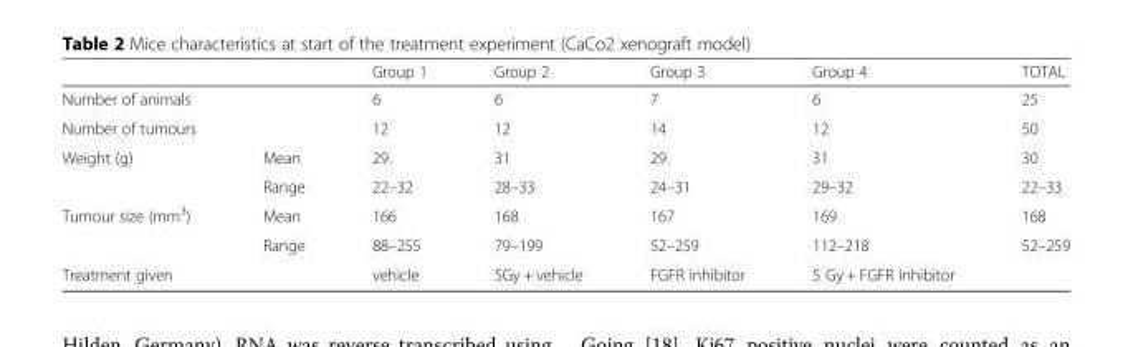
<table><thead><tr><td></td><td></td><td>Group 1</td><td>Group 2</td><td>Group 3</td><td>Group 4</td><td>TOTAL</td></tr></thead><tbody><tr><td>Number of animals</td><td></td><td>6</td><td>6</td><td>7</td><td>6</td><td>25</td></tr><tr><td>Number of tumours</td><td></td><td>12</td><td>12</td><td>14</td><td>12</td><td>50</td></tr><tr><td rowspan="2">Weight (g)</td><td>Mean</td><td>29</td><td>31</td><td>29</td><td>31</td><td>30</td></tr><tr><td>Range</td><td>22–32</td><td>28–33</td><td>24–31</td><td>29–32</td><td>22–33</td></tr><tr><td rowspan="2">Tumour size (mm<sup>3</sup>)</td><td>Mean</td><td>166</td><td>168</td><td>167</td><td>169</td><td>168</td></tr><tr><td>Range</td><td>88–255</td><td>79–199</td><td>52–259</td><td>112–218</td><td>52–259</td></tr><tr><td>Treatment given</td><td></td><td>vehicle</td><td>5Gy + vehicle</td><td>FGFR inhibitor</td><td>5 Gy + FGFR inhibitor</td><td></td></tr></tbody></table>